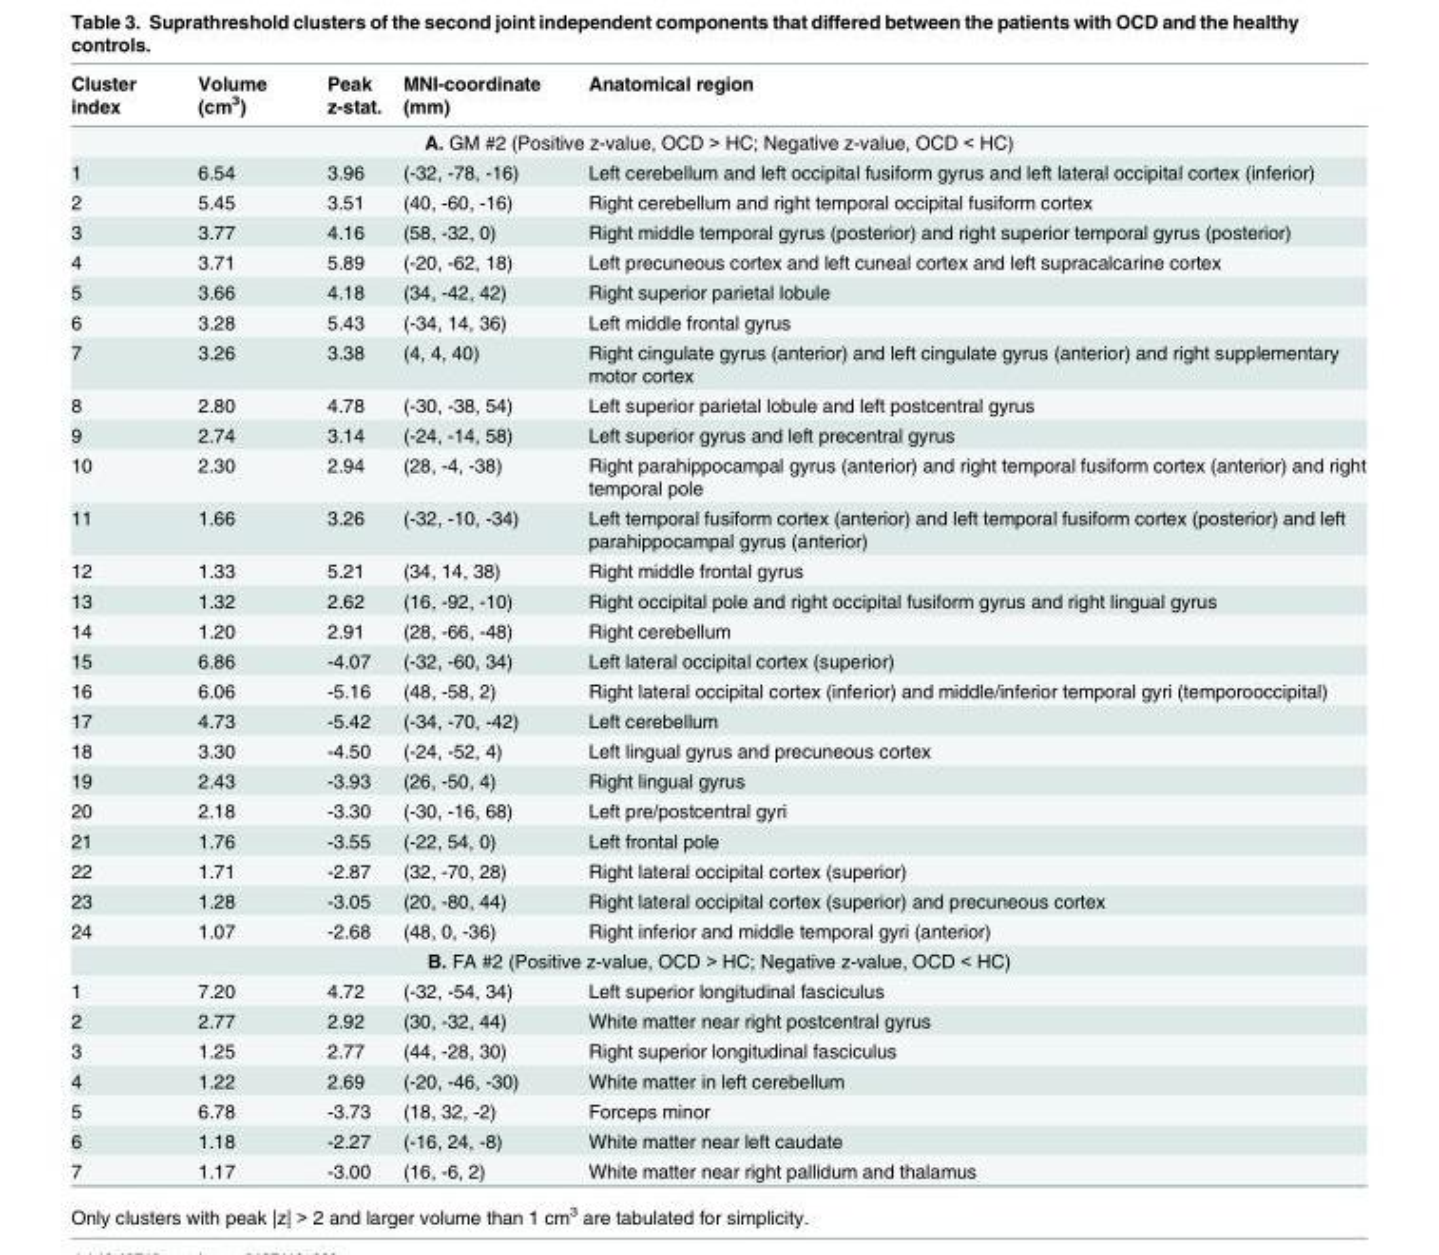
<table><thead><tr><td>Cluster index</td><td>Volume (cm<sup>3</sup>)</td><td>Peak z-stat.</td><td>MNI-coordinate (mm)</td><td>Anatomical region</td></tr></thead><tbody><tr><td colspan="5">A. GM #2 (Positive z-value, OCD &gt; HC; Negative z-value, OCD &lt; HC)</td></tr><tr><td>1</td><td>6.54</td><td>3.96</td><td>(-32, -78, -16)</td><td>Left cerebellum and left occipital fusiform gyrus and left lateral occipital cortex (inferior)</td></tr><tr><td>2</td><td>5.45</td><td>3.51</td><td>(40, -60, -16)</td><td>Right cerebellum and right temporal occipital fusiform cortex</td></tr><tr><td>3</td><td>3.77</td><td>4.16</td><td>(58, -32, 0)</td><td>Right middle temporal gyrus (posterior) and right superior temporal gyrus (posterior)</td></tr><tr><td>4</td><td>3.71</td><td>5.89</td><td>(-20, -62, 18)</td><td>Left precuneous cortex and left cuneal cortex and left supracalcarine cortex</td></tr><tr><td>5</td><td>3.66</td><td>4.18</td><td>(34, -42, 42)</td><td>Right superior parietal lobule</td></tr><tr><td>6</td><td>3.28</td><td>5.43</td><td>(-34, 14, 36)</td><td>Left middle frontal gyrus</td></tr><tr><td>7</td><td>3.26</td><td>3.38</td><td>(4, 4, 40)</td><td>Right cingulate gyrus (anterior) and left cingulate gyrus (anterior) and right supplementary motor cortex</td></tr><tr><td>8</td><td>2.80</td><td>4.78</td><td>(-30, -38, 54)</td><td>Left superior parietal lobule and left postcentral gyrus</td></tr><tr><td>9</td><td>2.74</td><td>3.14</td><td>(-24, -14, 58)</td><td>Left superior gyrus and left precentral gyrus</td></tr><tr><td>10</td><td>2.30</td><td>2.94</td><td>(28, -4, -38)</td><td>Right parahippocampal gyrus (anterior) and right temporal fusiform cortex (anterior) and right temporal pole</td></tr><tr><td>11</td><td>1.66</td><td>3.26</td><td>(-32, -10, -34)</td><td>Left temporal fusiform cortex (anterior) and left temporal fusiform cortex (posterior) and left parahippocampal gyrus (anterior)</td></tr><tr><td>12</td><td>1.33</td><td>5.21</td><td>(34, 14, 38)</td><td>Right middle frontal gyrus</td></tr><tr><td>13</td><td>1.32</td><td>2.62</td><td>(16, -92, -10)</td><td>Right occipital pole and right occipital fusiform gyrus and right lingual gyrus</td></tr><tr><td>14</td><td>1.20</td><td>2.91</td><td>(28, -66, -48)</td><td>Right cerebellum</td></tr><tr><td>15</td><td>6.86</td><td>-4.07</td><td>(-32, -60, 34)</td><td>Left lateral occipital cortex (superior)</td></tr><tr><td>16</td><td>6.06</td><td>-5.16</td><td>(48, -58, 2)</td><td>Right lateral occipital cortex (inferior) and middle/inferior temporal gyri (temporooccipital)</td></tr><tr><td>17</td><td>4.73</td><td>-5.42</td><td>(-34, -70, -42)</td><td>Left cerebellum</td></tr><tr><td>18</td><td>3.30</td><td>-4.50</td><td>(-24, -52, 4)</td><td>Left lingual gyrus and precuneous cortex</td></tr><tr><td>19</td><td>2.43</td><td>-3.93</td><td>(26, -50, 4)</td><td>Right lingual gyrus</td></tr><tr><td>20</td><td>2.18</td><td>-3.30</td><td>(-30, -16, 68)</td><td>Left pre/postcentral gyri</td></tr><tr><td>21</td><td>1.76</td><td>-3.55</td><td>(-22, 54, 0)</td><td>Left frontal pole</td></tr><tr><td>22</td><td>1.71</td><td>-2.87</td><td>(32, -70, 28)</td><td>Right lateral occipital cortex (superior)</td></tr><tr><td>23</td><td>1.28</td><td>-3.05</td><td>(20, -80, 44)</td><td>Right lateral occipital cortex (superior) and precuneous cortex</td></tr><tr><td>24</td><td>1.07</td><td>-2.68</td><td>(48, 0, -36)</td><td>Right inferior and middle temporal gyri (anterior)</td></tr><tr><td colspan="5">B. FA #2 (Positive z-value, OCD &gt; HC; Negative z-value, OCD &lt; HC)</td></tr><tr><td>1</td><td>7.20</td><td>4.72</td><td>(-32, -54, 34)</td><td>Left superior longitudinal fasciculus</td></tr><tr><td>2</td><td>2.77</td><td>2.92</td><td>(30, -32, 44)</td><td>White matter near right postcentral gyrus</td></tr><tr><td>3</td><td>1.25</td><td>2.77</td><td>(44, -28, 30)</td><td>Right superior longitudinal fasciculus</td></tr><tr><td>4</td><td>1.22</td><td>2.69</td><td>(-20, -46, -30)</td><td>White matter in left cerebellum</td></tr><tr><td>5</td><td>6.78</td><td>-3.73</td><td>(18, 32, -2)</td><td>Forceps minor</td></tr><tr><td>6</td><td>1.18</td><td>-2.27</td><td>(-16, 24, -8)</td><td>White matter near left caudate</td></tr><tr><td>7</td><td>1.17</td><td>-3.00</td><td>(16, -6, 2)</td><td>White matter near right pallidum and thalamus</td></tr></tbody></table>